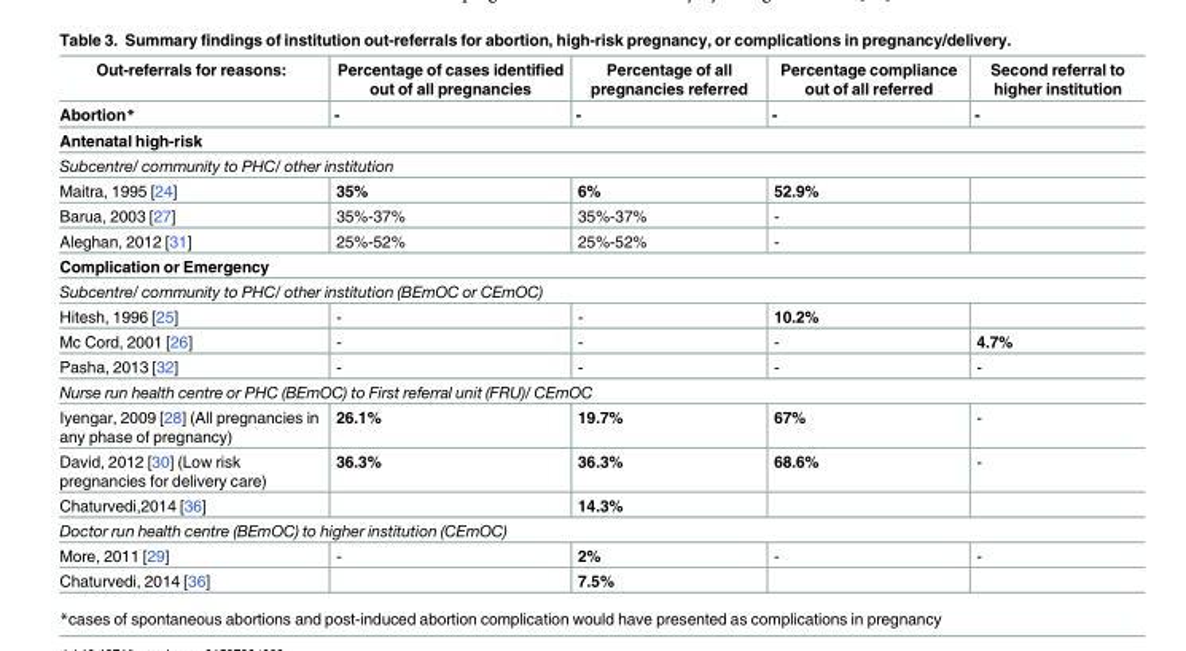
<table><thead><tr><td rowspan="2">Out-referrals for reasons: Abortion*</td><td rowspan="2">Percentage of cases identified out of all pregnancies -</td><td rowspan="2">Percentage of all pregnancies referred -</td><td rowspan="2">Percentage compliance out of all referred -</td><td rowspan="2">Second referral to higher institution -</td></tr><tr></tr></thead><tbody><tr><td colspan="5">Antenatal high-risk</td></tr><tr><td colspan="5">Subcentre/ community to PHC/ other institution</td></tr><tr><td>Maitra, 1995 [24]</td><td>35%</td><td>6%</td><td>52.9%</td><td></td></tr><tr><td>Barua, 2003 [27]</td><td>35%-37%</td><td>35%-37%</td><td>-</td><td></td></tr><tr><td>Aleghan, 2012 [31]</td><td>25%-52%</td><td>25%-52%</td><td>-</td><td></td></tr><tr><td colspan="5">Complication or Emergency</td></tr><tr><td colspan="5">Subcentre/ community to PHC/ other institution (BEmOC or CEmOC)</td></tr><tr><td>Hitesh, 1996 [25]</td><td>-</td><td>-</td><td>10.2%</td><td></td></tr><tr><td>Mc Cord, 2001 [26]</td><td>-</td><td>-</td><td>-</td><td>4.7%</td></tr><tr><td>Pasha, 2013 [32]</td><td>-</td><td>-</td><td>-</td><td>-</td></tr><tr><td colspan="5">Nurse run health centre or PHC (BEmOC) to First referral unit (FRU)/ CEmOC</td></tr><tr><td>Iyengar, 2009 [28] (All pregnancies in any phase of pregnancy)</td><td>26.1%</td><td>19.7%</td><td>67%</td><td>-</td></tr><tr><td>David, 2012 [30] (Low risk pregnancies for delivery care)</td><td>36.3%</td><td>36.3%</td><td>68.6%</td><td>-</td></tr><tr><td>Chaturvedi,2014 [36]</td><td></td><td>14.3%</td><td></td><td></td></tr><tr><td colspan="5">Doctor run health centre (BEmOC) to higher institution (CEmOC)</td></tr><tr><td>More, 2011 [29]</td><td>-</td><td>2%</td><td>-</td><td>-</td></tr><tr><td>Chaturvedi, 2014 [36]</td><td></td><td>7.5%</td><td></td><td></td></tr></tbody></table>